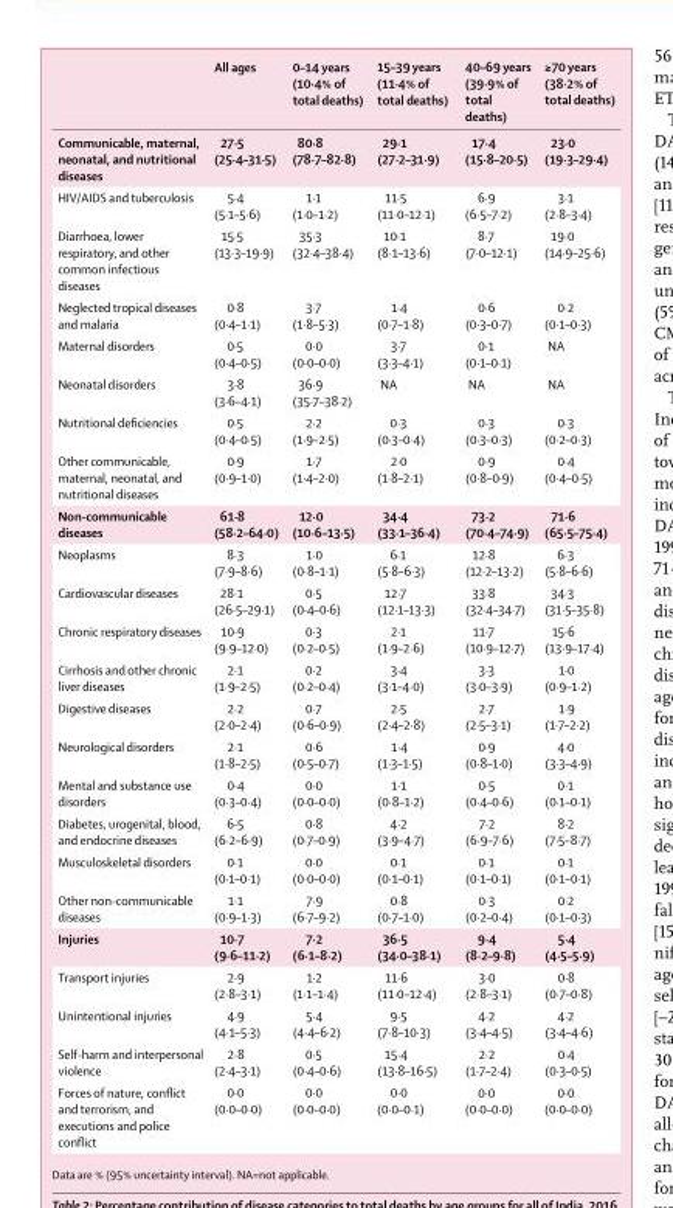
<table><thead><tr><td></td><td>All ages</td><td>0–14 years (10·4% of total deaths)</td><td>15–39 years (11·4% of total deaths)</td><td>40–69 years (39·9% of total deaths)</td><td>≥70 years (38·2% of total deaths)</td></tr></thead><tbody><tr><td>Communicable, maternal, neonatal, and nutritional diseases</td><td>27·5 (25·4–31·5)</td><td>80·8 (78·7–82·8)</td><td>29·1 (27·2–31·9)</td><td>17·4 (15·8–20·5)</td><td>23·0 (19·3–29·4)</td></tr><tr><td>HIV/AIDS and tuberculosis</td><td>5·4 (5·1–5·6)</td><td>1·1 (1·0–1·2)</td><td>11·5 (11·0–12·1)</td><td>6·9 (6·5–7·2)</td><td>3·1 (2·8–3·4)</td></tr><tr><td>Diarrhoea, lower respiratory, and other common infectious diseases</td><td>15·5 (13·3–19·9)</td><td>35·3 (32·4–38·4)</td><td>10·1 (8·1–13·6)</td><td>8·7 (7·0–12·1)</td><td>19·0 (14·9–25·6)</td></tr><tr><td>Neglected tropical diseases and malaria</td><td>0·8 (0·4–1·1)</td><td>3·7 (1·8–5·3)</td><td>1·4 (0·7–1·8)</td><td>0·6 (0·3–0·7)</td><td>0·2 (0·1–0·3)</td></tr><tr><td>Maternal disorders</td><td>0·5 (0·4–0·5)</td><td>0·0 (0·0–0·0)</td><td>3·7 (3·3–4·1)</td><td>0·1 (0·1–0·1)</td><td>NA</td></tr><tr><td>Neonatal disorders</td><td>3·8 (3·6–4·1)</td><td>36·9 (35·7–38·2)</td><td>NA</td><td>NA</td><td>NA</td></tr><tr><td>Nutritional deficiencies</td><td>0·5 (0·4–0·5)</td><td>2·2 (1·9–2·5)</td><td>0·3 (0·3–0·4)</td><td>0·3 (0·3–0·3)</td><td>0·3 (0·2–0·3)</td></tr><tr><td>Other communicable, maternal, neonatal, and nutritional diseases</td><td>0·9 (0·9–1·0)</td><td>1·7 (1·4–2·0)</td><td>2·0 (1·8–2·1)</td><td>0·9 (0·8–0·9)</td><td>0·4 (0·4–0·5)</td></tr><tr><td>Non-communicable diseases</td><td>61·8 (58·2–64·0)</td><td>12·0 (10·6–13·5)</td><td>34·4 (33·1–36·4)</td><td>73·2 (70·4–74·9)</td><td>71·6 (65·5–75·4)</td></tr><tr><td>Neoplasms</td><td>8·3 (7·9–8·6)</td><td>1·0 (0·8–1·1)</td><td>6·1 (5·8–6·3)</td><td>12·8 (12·2–13·2)</td><td>6·3 (5·8–6·6)</td></tr><tr><td>Cardiovascular diseases</td><td>28·1 (26·5–29·1)</td><td>0·5 (0·4–0·6)</td><td>12·7 (12·1–13·3)</td><td>33·8 (32·4–34·7)</td><td>34·3 (31·5–35·8)</td></tr><tr><td>Chronic respiratory diseases</td><td>10·9 (9·9–12·0)</td><td>0·3 (0·2–0·5)</td><td>2·1 (1·9–2·6)</td><td>11·7 (10·9–12·7)</td><td>15·6 (13·9–17·4)</td></tr><tr><td>Cirrhosis and other chronic liver diseases</td><td>2·1 (1·9–2·5)</td><td>0·2 (0·2–0·4)</td><td>3·4 (3·1–4·0)</td><td>3·3 (3·0–3·9)</td><td>1·0 (0·9–1·2)</td></tr><tr><td>Digestive diseases</td><td>2·2 (2·0–2·4)</td><td>0·7 (0·6–0·9)</td><td>2·5 (2·4–2·8)</td><td>2·7 (2·5–3·1)</td><td>1·9 (1·7–2·2)</td></tr><tr><td>Neurological disorders</td><td>2·1 (1·8–2·5)</td><td>0·6 (0·5–0·7)</td><td>1·4 (1·3–1·5)</td><td>0·9 (0·8–1·0)</td><td>4·0 (3·3–4·9)</td></tr><tr><td>Mental and substance use disorders</td><td>0·4 (0·3–0·4)</td><td>0·0 (0·0–0·0)</td><td>1·1 (0·8–1·2)</td><td>0·5 (0·4–0·6)</td><td>0·1 (0·1–0·1)</td></tr><tr><td>Diabetes, urogenital, blood, and endocrine diseases</td><td>6·5 (6·2–6·9)</td><td>0·8 (0·7–0·9)</td><td>4·2 (3·9–4·7)</td><td>7·2 (6·9–7·6)</td><td>8·2 (7·5–8·7)</td></tr><tr><td>Musculoskeletal disorders</td><td>0·1 (0·1–0·1)</td><td>0·0 (0·0–0·0)</td><td>0·1 (0·1–0·1)</td><td>0·1 (0·1–0·1)</td><td>0·1 (0·1–0·1)</td></tr><tr><td>Other non-communicable diseases</td><td>1·1 (0·9–1·3)</td><td>7·9 (6·7–9·2)</td><td>0·8 (0·7–1·0)</td><td>0·3 (0·2–0·4)</td><td>0·2 (0·1–0·3)</td></tr><tr><td>Injuries</td><td>10·7 (9·6–11·2)</td><td>7·2 (6·1–8·2)</td><td>36·5 (34·0–38·1)</td><td>9·4 (8·2–9·8)</td><td>5·4 (4·5–5·9)</td></tr><tr><td>Transport injuries</td><td>2·9 (2·8–3·1)</td><td>1·2 (1·1–1·4)</td><td>11·6 (11·0–12·4)</td><td>3·0 (2·8–3·1)</td><td>0·8 (0·7–0·8)</td></tr><tr><td>Unintentional injuries</td><td>4·9 (4·1–5·3)</td><td>5·4 (4·4–6·2)</td><td>9·5 (7·8–10·3)</td><td>4·2 (3·4–4·5)</td><td>4·2 (3·4–4·6)</td></tr><tr><td>Self-harm and interpersonal violence</td><td>2·8 (2·4–3·1)</td><td>0·5 (0·4–0·6)</td><td>15·4 (13·8–16·5)</td><td>2·2 (1·7–2·4)</td><td>0·4 (0·3–0·5)</td></tr><tr><td>Forces of nature, conflict and terrorism, and executions and police conflict</td><td>0·0 (0·0–0·0)</td><td>0·0 (0·0–0·0)</td><td>0·0 (0·0–0·1)</td><td>0·0 (0·0–0·0)</td><td>0·0 (0·0–0·0)</td></tr></tbody></table>